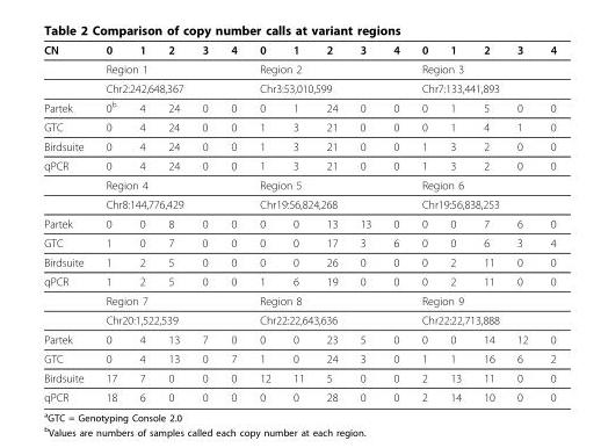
<table><thead><tr><td>CN</td><td>0</td><td>1</td><td>2</td><td>3</td><td>4</td><td>0</td><td>1</td><td>2</td><td>3</td><td>4</td><td>0</td><td>1</td><td>2</td><td>3</td><td>4</td></tr></thead><tbody><tr><td></td><td colspan="5">Region 1</td><td colspan="5">Region 2</td><td colspan="5">Region 3</td></tr><tr><td></td><td colspan="5">Chr2:242,648,367</td><td colspan="5">Chr3:53,010,599</td><td colspan="5">Chr7:133,441,893</td></tr><tr><td>Partek</td><td>0<sup>b</sup></td><td>4</td><td>24</td><td>0</td><td>0</td><td>0</td><td>1</td><td>24</td><td>0</td><td>0</td><td>0</td><td>1</td><td>5</td><td>0</td><td>0</td></tr><tr><td>GTC</td><td>0</td><td>4</td><td>24</td><td>0</td><td>0</td><td>1</td><td>3</td><td>21</td><td>0</td><td>0</td><td>0</td><td>1</td><td>4</td><td>1</td><td>0</td></tr><tr><td>Birdsuite</td><td>0</td><td>4</td><td>24</td><td>0</td><td>0</td><td>1</td><td>3</td><td>21</td><td>0</td><td>0</td><td>1</td><td>3</td><td>2</td><td>0</td><td>0</td></tr><tr><td rowspan="3">qPCR</td><td>0</td><td>4</td><td>24</td><td>0</td><td>0</td><td>1</td><td>3</td><td>21</td><td>0</td><td>0</td><td>1</td><td>3</td><td>2</td><td>0</td><td>0</td></tr><tr><td colspan="5">Region 4</td><td colspan="5">Region 5</td><td colspan="5">Region 6</td></tr><tr><td colspan="5">Chr8:144,776,429</td><td colspan="5">Chr19:56,824,268</td><td colspan="5">Chr19:56,838,253</td></tr><tr><td>Partek</td><td>0</td><td>0</td><td>8</td><td>0</td><td>0</td><td>0</td><td>0</td><td>13</td><td>13</td><td>0</td><td>0</td><td>0</td><td>7</td><td>6</td><td>0</td></tr><tr><td>GTC</td><td>1</td><td>0</td><td>7</td><td>0</td><td>0</td><td>0</td><td>0</td><td>17</td><td>3</td><td>6</td><td>0</td><td>0</td><td>6</td><td>3</td><td>4</td></tr><tr><td>Birdsuite</td><td>1</td><td>2</td><td>5</td><td>0</td><td>0</td><td>0</td><td>0</td><td>26</td><td>0</td><td>0</td><td>0</td><td>2</td><td>11</td><td>0</td><td>0</td></tr><tr><td rowspan="3">qPCR</td><td>1</td><td>2</td><td>5</td><td>0</td><td>0</td><td>1</td><td>6</td><td>19</td><td>0</td><td>0</td><td>0</td><td>2</td><td>11</td><td>0</td><td>0</td></tr><tr><td colspan="5">Region 7</td><td colspan="5">Region 8</td><td colspan="5">Region 9</td></tr><tr><td colspan="5">Chr20:1,522,539</td><td colspan="5">Chr22:22,643,636</td><td colspan="5">Chr22:22,713,888</td></tr><tr><td>Partek</td><td>0</td><td>4</td><td>13</td><td>7</td><td>0</td><td>0</td><td>0</td><td>23</td><td>5</td><td>0</td><td>0</td><td>0</td><td>14</td><td>12</td><td>0</td></tr><tr><td>GTC</td><td>0</td><td>4</td><td>13</td><td>0</td><td>7</td><td>1</td><td>0</td><td>24</td><td>3</td><td>0</td><td>1</td><td>1</td><td>16</td><td>6</td><td>2</td></tr><tr><td>Birdsuite</td><td>17</td><td>7</td><td>0</td><td>0</td><td>0</td><td>12</td><td>11</td><td>5</td><td>0</td><td>0</td><td>2</td><td>13</td><td>11</td><td>0</td><td>0</td></tr><tr><td>qPCR</td><td>18</td><td>6</td><td>0</td><td>0</td><td>0</td><td>0</td><td>0</td><td>28</td><td>0</td><td>0</td><td>2</td><td>14</td><td>10</td><td>0</td><td>0</td></tr></tbody></table>